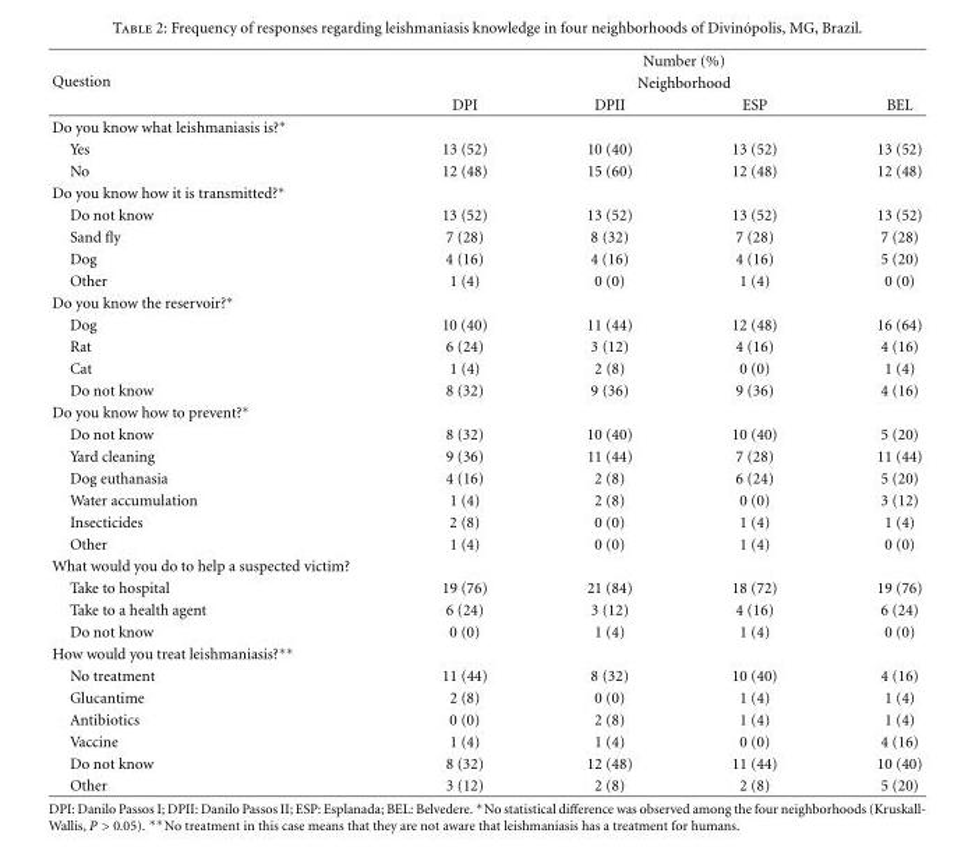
<table><thead><tr><td rowspan="3">Question</td><td rowspan="2" colspan="4">Number (%) Neighborhood</td></tr><tr></tr><tr><td>DPI</td><td>DPII</td><td>ESP</td><td>BEL</td></tr></thead><tbody><tr><td colspan="5">Do you know what leishmaniasis is?∗</td></tr><tr><td>Yes</td><td>13 (52)</td><td>10 (40)</td><td>13 (52)</td><td>13 (52)</td></tr><tr><td>No</td><td>12 (48)</td><td>15 (60)</td><td>12 (48)</td><td>12 (48)</td></tr><tr><td colspan="5">Do you know how it is transmitted?∗</td></tr><tr><td>Do not know</td><td>13 (52)</td><td>13 (52)</td><td>13 (52)</td><td>13 (52)</td></tr><tr><td>Sand fly</td><td>7 (28)</td><td>8 (32)</td><td>7 (28)</td><td>7 (28)</td></tr><tr><td>Dog</td><td>4 (16)</td><td>4 (16)</td><td>4 (16)</td><td>5 (20)</td></tr><tr><td>Other</td><td>1 (4)</td><td>0 (0)</td><td>1 (4)</td><td>0 (0)</td></tr><tr><td colspan="5">Do you know the reservoir?∗</td></tr><tr><td>Dog</td><td>10 (40)</td><td>11 (44)</td><td>12 (48)</td><td>16 (64)</td></tr><tr><td>Rat</td><td>6 (24)</td><td>3 (12)</td><td>4 (16)</td><td>4 (16)</td></tr><tr><td>Cat</td><td>1 (4)</td><td>2 (8)</td><td>0 (0)</td><td>1 (4)</td></tr><tr><td>Do not know</td><td>8 (32)</td><td>9 (36)</td><td>9 (36)</td><td>4 (16)</td></tr><tr><td colspan="5">Do you know how to prevent?∗</td></tr><tr><td>Do not know</td><td>8 (32)</td><td>10 (40)</td><td>10 (40)</td><td>5 (20)</td></tr><tr><td>Yard cleaning</td><td>9 (36)</td><td>11 (44)</td><td>7 (28)</td><td>11 (44)</td></tr><tr><td>Dog euthanasia</td><td>4 (16)</td><td>2 (8)</td><td>6 (24)</td><td>5 (20)</td></tr><tr><td>Water accumulation</td><td>1 (4)</td><td>2 (8)</td><td>0 (0)</td><td>3 (12)</td></tr><tr><td>Insecticides</td><td>2 (8)</td><td>0 (0)</td><td>1 (4)</td><td>1 (4)</td></tr><tr><td>Other</td><td>1 (4)</td><td>0 (0)</td><td>1 (4)</td><td>0 (0)</td></tr><tr><td colspan="5">What would you do to help a suspected victim?</td></tr><tr><td>Take to hospital</td><td>19 (76)</td><td>21 (84)</td><td>18 (72)</td><td>19 (76)</td></tr><tr><td>Take to a health agent</td><td>6 (24)</td><td>3 (12)</td><td>4 (16)</td><td>6 (24)</td></tr><tr><td>Do not know</td><td>0 (0)</td><td>1 (4)</td><td>1 (4)</td><td>0 (0)</td></tr><tr><td colspan="5">How would you treat leishmaniasis?∗∗</td></tr><tr><td>No treatment</td><td>11 (44)</td><td>8 (32)</td><td>10 (40)</td><td>4 (16)</td></tr><tr><td>Glucantime</td><td>2 (8)</td><td>0 (0)</td><td>1 (4)</td><td>1 (4)</td></tr><tr><td>Antibiotics</td><td>0 (0)</td><td>2 (8)</td><td>1 (4)</td><td>1 (4)</td></tr><tr><td>Vaccine</td><td>1 (4)</td><td>1 (4)</td><td>0 (0)</td><td>4 (16)</td></tr><tr><td>Do not know</td><td>8 (32)</td><td>12 (48)</td><td>11 (44)</td><td>10 (40)</td></tr><tr><td>Other</td><td>3 (12)</td><td>2 (8)</td><td>2 (8)</td><td>5 (20)</td></tr></tbody></table>